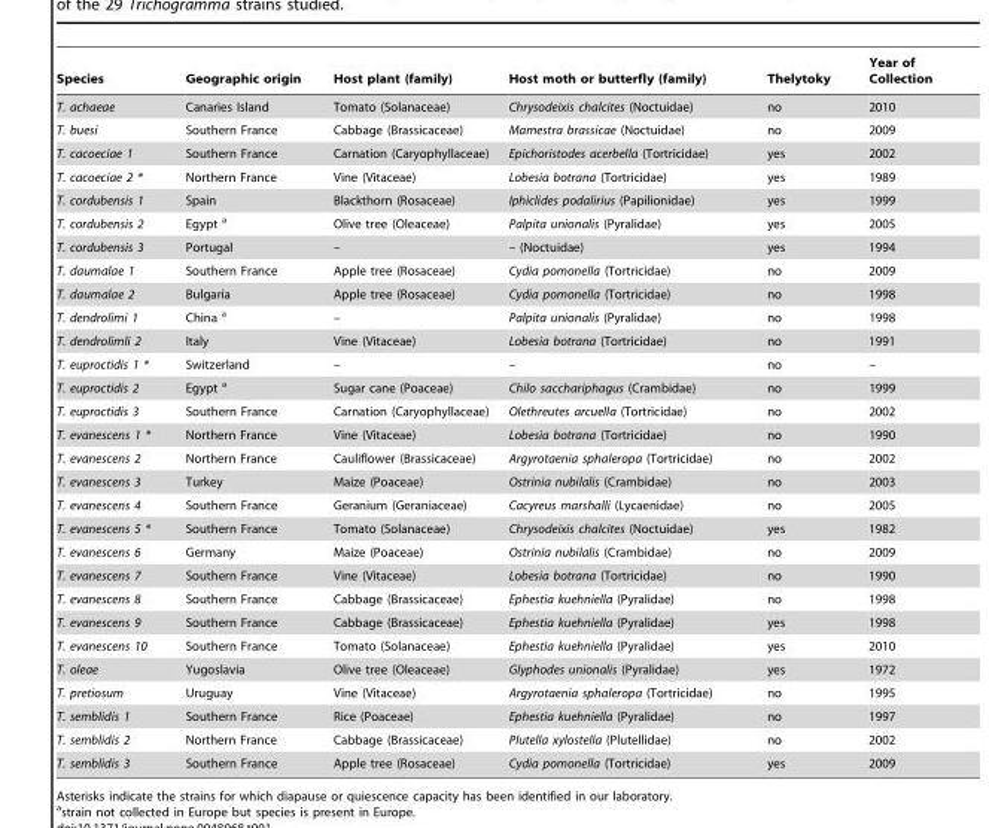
<table><thead><tr><td>Species</td><td>Geographic origin</td><td>Host plant (family)</td><td>Host moth or butterfly (family)</td><td>Thelytoky</td><td>Year of Collection</td></tr></thead><tbody><tr><td>T. achaeae</td><td>Canaries Island</td><td>Tomato (Solanaceae)</td><td>Chrysodeixis chalcites (Noctuidae)</td><td>no</td><td>2010</td></tr><tr><td>T. buesi</td><td>Southern France</td><td>Cabbage (Brassicaceae)</td><td>Mamestra brassicae (Noctuidae)</td><td>no</td><td>2009</td></tr><tr><td>T. cacoeciae 1</td><td>Southern France</td><td>Carnation (Caryophyllaceae)</td><td>Epichoristodes acerbella (Tortricidae)</td><td>yes</td><td>2002</td></tr><tr><td>T. cacoeciae 2 *</td><td>Northern France</td><td>Vine (Vitaceae)</td><td>Lobesia botrana (Tortricidae)</td><td>yes</td><td>1989</td></tr><tr><td>T. cordubensis 1</td><td>Spain</td><td>Blackthorn (Rosaceae)</td><td>Iphiclides podalirius (Papilionidae)</td><td>yes</td><td>1999</td></tr><tr><td>T. cordubensis 2</td><td>Egypt a</td><td>Olive tree (Oleaceae)</td><td>Palpita unionalis (Pyralidae)</td><td>yes</td><td>2005</td></tr><tr><td>T. cordubensis 3</td><td>Portugal</td><td>–</td><td>– (Noctuidae)</td><td>yes</td><td>1994</td></tr><tr><td>T. daumalae 1</td><td>Southern France</td><td>Apple tree (Rosaceae)</td><td>Cydia pomonella (Tortricidae)</td><td>no</td><td>2009</td></tr><tr><td>T. daumalae 2</td><td>Bulgaria</td><td>Apple tree (Rosaceae)</td><td>Cydia pomonella (Tortricidae)</td><td>no</td><td>1998</td></tr><tr><td>T. dendrolimi 1</td><td>China a</td><td>–</td><td>Palpita unionalis (Pyralidae)</td><td>no</td><td>1998</td></tr><tr><td>T. dendrolimli 2</td><td>Italy</td><td>Vine (Vitaceae)</td><td>Lobesia botrana (Tortricidae)</td><td>no</td><td>1991</td></tr><tr><td>T. euproctidis 1 *</td><td>Switzerland</td><td>–</td><td>–</td><td>no</td><td>–</td></tr><tr><td>T. euproctidis 2</td><td>Egypt a</td><td>Sugar cane (Poaceae)</td><td>Chilo sacchariphagus (Crambidae)</td><td>no</td><td>1999</td></tr><tr><td>T. euproctidis 3</td><td>Southern France</td><td>Carnation (Caryophyllaceae)</td><td>Olethreutes arcuella (Tortricidae)</td><td>no</td><td>2002</td></tr><tr><td>T. evanescens 1 *</td><td>Northern France</td><td>Vine (Vitaceae)</td><td>Lobesia botrana (Tortricidae)</td><td>no</td><td>1990</td></tr><tr><td>T. evanescens 2</td><td>Northern France</td><td>Cauliflower (Brassicaceae)</td><td>Argyrotaenia sphaleropa (Tortricidae)</td><td>no</td><td>2002</td></tr><tr><td>T. evanescens 3</td><td>Turkey</td><td>Maize (Poaceae)</td><td>Ostrinia nubilalis (Crambidae)</td><td>no</td><td>2003</td></tr><tr><td>T. evanescens 4</td><td>Southern France</td><td>Geranium (Geraniaceae)</td><td>Cacyreus marshalli (Lycaenidae)</td><td>no</td><td>2005</td></tr><tr><td>T. evanescens 5 *</td><td>Southern France</td><td>Tomato (Solanaceae)</td><td>Chrysodeixis chalcites (Noctuidae)</td><td>yes</td><td>1982</td></tr><tr><td>T. evanescens 6</td><td>Germany</td><td>Maize (Poaceae)</td><td>Ostrinia nubilalis (Crambidae)</td><td>no</td><td>2009</td></tr><tr><td>T. evanescens 7</td><td>Southern France</td><td>Vine (Vitaceae)</td><td>Lobesia botrana (Tortricidae)</td><td>no</td><td>1990</td></tr><tr><td>T. evanescens 8</td><td>Southern France</td><td>Cabbage (Brassicaceae)</td><td>Ephestia kuehniella (Pyralidae)</td><td>no</td><td>1998</td></tr><tr><td>T. evanescens 9</td><td>Southern France</td><td>Cabbage (Brassicaceae)</td><td>Ephestia kuehniella (Pyralidae)</td><td>yes</td><td>1998</td></tr><tr><td>T. evanescens 10</td><td>Southern France</td><td>Tomato (Solanaceae)</td><td>Ephestia kuehniella (Pyralidae)</td><td>yes</td><td>2010</td></tr><tr><td>T. oleae</td><td>Yugoslavia</td><td>Olive tree (Oleaceae)</td><td>Glyphodes unionalis (Pyralidae)</td><td>yes</td><td>1972</td></tr><tr><td>T. pretiosum</td><td>Uruguay</td><td>Vine (Vitaceae)</td><td>Argyrotaenia sphaleropa (Tortricidae)</td><td>no</td><td>1995</td></tr><tr><td>T. semblidis 1</td><td>Southern France</td><td>Rice (Poaceae)</td><td>Ephestia kuehniella (Pyralidae)</td><td>no</td><td>1997</td></tr><tr><td>T. semblidis 2</td><td>Northern France</td><td>Cabbage (Brassicaceae)</td><td>Plutella xylostella (Plutellidae)</td><td>no</td><td>2002</td></tr><tr><td>T. semblidis 3</td><td>Southern France</td><td>Apple tree (Rosaceae)</td><td>Cydia pomonella (Tortricidae)</td><td>yes</td><td>2009</td></tr></tbody></table>